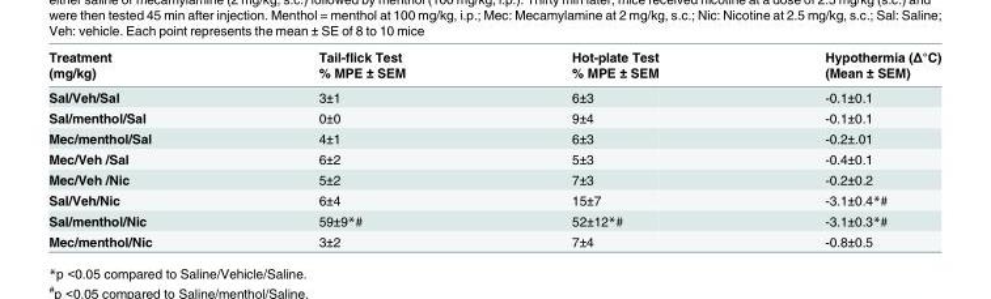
<table><thead><tr><td rowspan="2">Treatment (mg/kg)</td><td rowspan="2">Tail-flick Test % MPE ± SEM</td><td rowspan="2">Hot-plate Test % MPE ± SEM</td><td rowspan="2">Hypothermia (Δ°C) (Mean ± SEM)</td></tr><tr></tr></thead><tbody><tr><td>Sal/Veh/Sal</td><td>3±1</td><td>6±3</td><td>-0.1±0.1</td></tr><tr><td>Sal/menthol/Sal</td><td>0±0</td><td>9±4</td><td>-0.1±0.1</td></tr><tr><td>Mec/menthol/Sal</td><td>4±1</td><td>6±3</td><td>-0.2±.01</td></tr><tr><td>Mec/Veh /Sal</td><td>6±2</td><td>5±3</td><td>-0.4±0.1</td></tr><tr><td>Mec/Veh /Nic</td><td>5±2</td><td>7±3</td><td>-0.2±0.2</td></tr><tr><td>Sal/Veh/Nic</td><td>6±4</td><td>15±7</td><td>-3.1±0.4*#</td></tr><tr><td>Sal/menthol/Nic</td><td>59±9*#</td><td>52±12*#</td><td>-3.1±0.3*#</td></tr><tr><td>Mec/menthol/Nic</td><td>3±2</td><td>7±4</td><td>-0.8±0.5</td></tr></tbody></table>